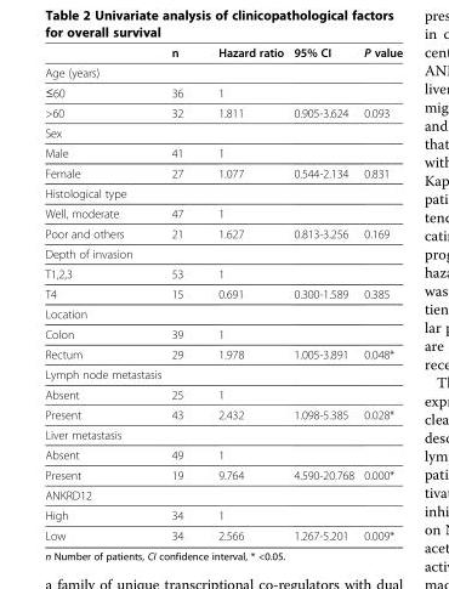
<table><thead><tr><td></td><td>n</td><td>Hazard ratio</td><td>95% CI</td><td>P value</td></tr></thead><tbody><tr><td colspan="5">Age (years)</td></tr><tr><td>≤60</td><td>36</td><td>1</td><td></td><td></td></tr><tr><td>&gt;60</td><td>32</td><td>1.811</td><td>0.905-3.624</td><td>0.093</td></tr><tr><td colspan="5">Sex</td></tr><tr><td>Male</td><td>41</td><td>1</td><td></td><td></td></tr><tr><td>Female</td><td>27</td><td>1.077</td><td>0.544-2.134</td><td>0.831</td></tr><tr><td colspan="5">Histological type</td></tr><tr><td>Well, moderate</td><td>47</td><td>1</td><td></td><td></td></tr><tr><td>Poor and others</td><td>21</td><td>1.627</td><td>0.813-3.256</td><td>0.169</td></tr><tr><td colspan="5">Depth of invasion</td></tr><tr><td>T1,2,3</td><td>53</td><td>1</td><td></td><td></td></tr><tr><td>T4</td><td>15</td><td>0.691</td><td>0.300-1.589</td><td>0.385</td></tr><tr><td colspan="5">Location</td></tr><tr><td>Colon</td><td>39</td><td>1</td><td></td><td></td></tr><tr><td>Rectum</td><td>29</td><td>1.978</td><td>1.005-3.891</td><td>0.048*</td></tr><tr><td colspan="5">Lymph node metastasis</td></tr><tr><td>Absent</td><td>25</td><td>1</td><td></td><td></td></tr><tr><td>Present</td><td>43</td><td>2.432</td><td>1.098-5.385</td><td>0.028*</td></tr><tr><td colspan="5">Liver metastasis</td></tr><tr><td>Absent</td><td>49</td><td>1</td><td></td><td></td></tr><tr><td>Present</td><td>19</td><td>9.764</td><td>4.590-20.768</td><td>0.000*</td></tr><tr><td colspan="5">ANKRD12</td></tr><tr><td>High</td><td>34</td><td>1</td><td></td><td></td></tr><tr><td>Low</td><td>34</td><td>2.566</td><td>1.267-5.201</td><td>0.009*</td></tr></tbody></table>